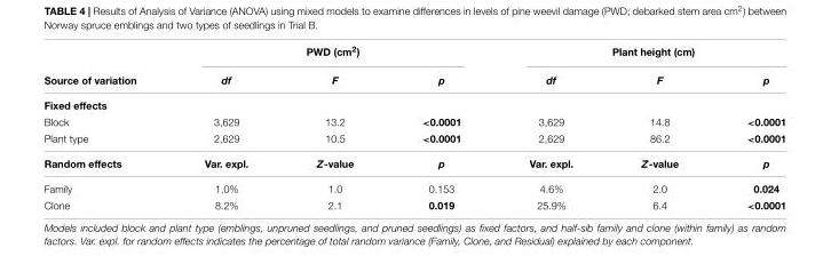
<table><thead><tr><td rowspan="2">Source of variation</td><td colspan="3">PWD (cm<sup>2</sup>)</td><td colspan="3">Plant height (cm)</td></tr><tr><td>df</td><td>F</td><td>p</td><td>df</td><td>F</td><td>p</td></tr></thead><tbody><tr><td colspan="7">Fixed effects</td></tr><tr><td>Block</td><td>3,629</td><td>13.2</td><td>&lt;0.0001</td><td>3,629</td><td>14.8</td><td>&lt;0.0001</td></tr><tr><td>Plant type</td><td>2,629</td><td>10.5</td><td>&lt;0.0001</td><td>2,629</td><td>86.2</td><td>&lt;0.0001</td></tr><tr><td>Random effects</td><td>Var. expl.</td><td>Z-value</td><td>p</td><td>Var. expl.</td><td>Z-value</td><td>p</td></tr><tr><td>Family</td><td>1.0%</td><td>1.0</td><td>0.153</td><td>4.6%</td><td>2.0</td><td>0.024</td></tr><tr><td>Clone</td><td>8.2%</td><td>2.1</td><td>0.019</td><td>25.9%</td><td>6.4</td><td>&lt;0.0001</td></tr></tbody></table>